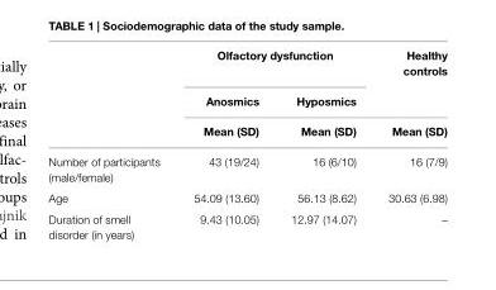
<table><thead><tr><td rowspan="3"></td><td colspan="2">Olfactory dysfunction</td><td rowspan="3">Healthy controls Mean (SD)</td></tr><tr><td rowspan="2">Anosmics Mean (SD)</td><td rowspan="2">Hyposmics Mean (SD)</td></tr><tr></tr></thead><tbody><tr><td>Number of participants (male/female)</td><td>43 (19/24)</td><td>16 (6/10)</td><td>16 (7/9)</td></tr><tr><td>Age</td><td>54.09 (13.60)</td><td>56.13 (8.62)</td><td>30.63 (6.98)</td></tr><tr><td>Duration of smell disorder (in years)</td><td>9.43 (10.05)</td><td>12.97 (14.07)</td><td>–</td></tr></tbody></table>